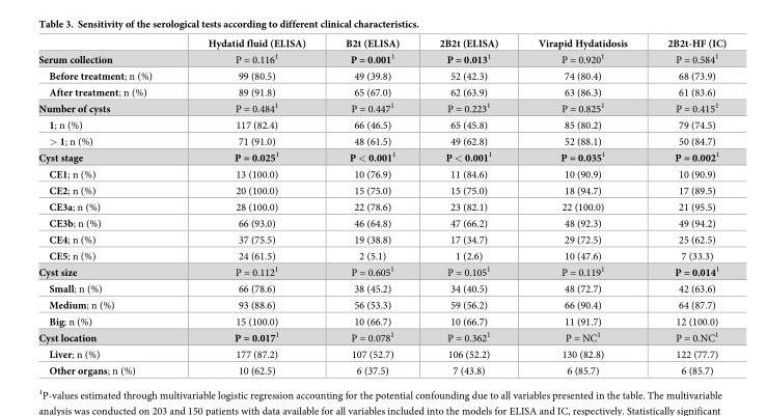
<table><thead><tr><td></td><td>Hydatid fluid (ELISA)</td><td>B2t (ELISA)</td><td>2B2t (ELISA)</td><td>Virapid Hydatidosis</td><td>2B2t-HF (IC)</td></tr></thead><tbody><tr><td>Serum collection</td><td>P = 0.116<sup>1</sup></td><td>P = 0.001<sup>1</sup></td><td>P = 0.013<sup>1</sup></td><td>P = 0.920<sup>1</sup></td><td>P = 0.584<sup>1</sup></td></tr><tr><td>Before treatment; n (%)</td><td>99 (80.5)</td><td>49 (39.8)</td><td>52 (42.3)</td><td>74 (80.4)</td><td>68 (73.9)</td></tr><tr><td>After treatment; n (%)</td><td>89 (91.8)</td><td>65 (67.0)</td><td>62 (63.9)</td><td>63 (86.3)</td><td>61 (83.6)</td></tr><tr><td>Number of cysts</td><td>P = 0.484<sup>1</sup></td><td>P = 0.447<sup>1</sup></td><td>P = 0.223<sup>1</sup></td><td>P = 0.825<sup>1</sup></td><td>P = 0.415<sup>1</sup></td></tr><tr><td>1; n (%)</td><td>117 (82.4)</td><td>66 (46.5)</td><td>65 (45.8)</td><td>85 (80.2)</td><td>79 (74.5)</td></tr><tr><td>&gt; 1; n (%)</td><td>71 (91.0)</td><td>48 (61.5)</td><td>49 (62.8)</td><td>52 (88.1)</td><td>50 (84.7)</td></tr><tr><td>Cyst stage</td><td>P = 0.025<sup>1</sup></td><td>P &lt; 0.001<sup>1</sup></td><td>P &lt; 0.001<sup>1</sup></td><td>P = 0.035<sup>1</sup></td><td>P = 0.002<sup>1</sup></td></tr><tr><td>CE1; n (%)</td><td>13 (100.0)</td><td>10 (76.9)</td><td>11 (84.6)</td><td>10 (90.9)</td><td>10 (90.9)</td></tr><tr><td>CE2; n (%)</td><td>20 (100.0)</td><td>15 (75.0)</td><td>15 (75.0)</td><td>18 (94.7)</td><td>17 (89.5)</td></tr><tr><td>CE3a; n (%)</td><td>28 (100.0)</td><td>22 (78.6)</td><td>23 (82.1)</td><td>22 (100.0)</td><td>21 (95.5)</td></tr><tr><td>CE3b; n (%)</td><td>66 (93.0)</td><td>46 (64.8)</td><td>47 (66.2)</td><td>48 (92.3)</td><td>49 (94.2)</td></tr><tr><td>CE4; n (%)</td><td>37 (75.5)</td><td>19 (38.8)</td><td>17 (34.7)</td><td>29 (72.5)</td><td>25 (62.5)</td></tr><tr><td>CE5; n (%)</td><td>24 (61.5)</td><td>2 (5.1)</td><td>1 (2.6)</td><td>10 (47.6)</td><td>7 (33.3)</td></tr><tr><td>Cyst size</td><td>P = 0.112<sup>1</sup></td><td>P = 0.605<sup>1</sup></td><td>P = 0.105<sup>1</sup></td><td>P = 0.119<sup>1</sup></td><td>P = 0.014<sup>1</sup></td></tr><tr><td>Small; n (%)</td><td>66 (78.6)</td><td>38 (45.2)</td><td>34 (40.5)</td><td>48 (72.7)</td><td>42 (63.6)</td></tr><tr><td>Medium; n (%)</td><td>93 (88.6)</td><td>56 (53.3)</td><td>59 (56.2)</td><td>66 (90.4)</td><td>64 (87.7)</td></tr><tr><td>Big; n (%)</td><td>15 (100.0)</td><td>10 (66.7)</td><td>10 (66.7)</td><td>11 (91.7)</td><td>12 (100.0)</td></tr><tr><td>Cyst location</td><td>P = 0.017<sup>1</sup></td><td>P = 0.078<sup>1</sup></td><td>P = 0.362<sup>1</sup></td><td>P = NC<sup>1</sup></td><td>P = 0.NC<sup>1</sup></td></tr><tr><td>Liver; n (%)</td><td>177 (87.2)</td><td>107 (52.7)</td><td>106 (52.2)</td><td>130 (82.8)</td><td>122 (77.7)</td></tr><tr><td>Other organs; n (%)</td><td>10 (62.5)</td><td>6 (37.5)</td><td>7 (43.8)</td><td>6 (85.7)</td><td>6 (85.7)</td></tr></tbody></table>